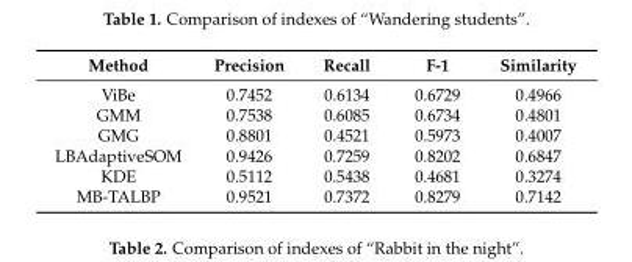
<table><thead><tr><td>Method</td><td>Precision</td><td>Recall</td><td>F-1</td><td>Similarity</td></tr></thead><tbody><tr><td>ViBe</td><td>0.7452</td><td>0.6134</td><td>0.6729</td><td>0.4966</td></tr><tr><td>GMM</td><td>0.7538</td><td>0.6085</td><td>0.6734</td><td>0.4801</td></tr><tr><td>GMG</td><td>0.8801</td><td>0.4521</td><td>0.5973</td><td>0.4007</td></tr><tr><td>LBAdaptiveSOM</td><td>0.9426</td><td>0.7259</td><td>0.8202</td><td>0.6847</td></tr><tr><td>KDE</td><td>0.5112</td><td>0.5438</td><td>0.4681</td><td>0.3274</td></tr><tr><td>MB-TALBP</td><td>0.9521</td><td>0.7372</td><td>0.8279</td><td>0.7142</td></tr></tbody></table>